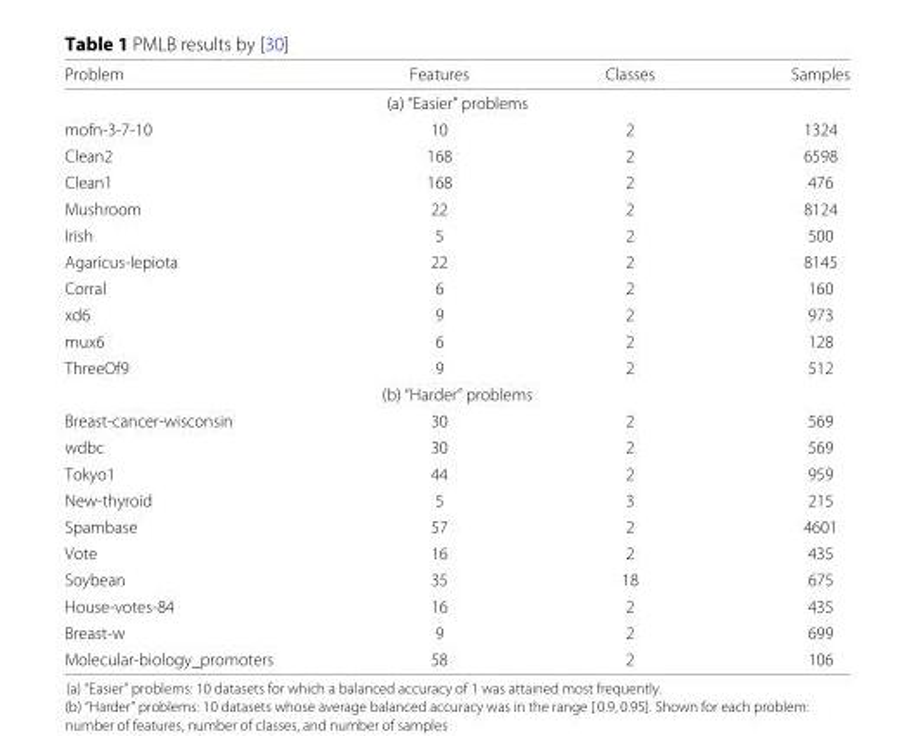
<table><thead><tr><td>Problem</td><td>Features</td><td>Classes</td><td>Samples</td></tr></thead><tbody><tr><td colspan="4">(a) “Easier” problems</td></tr><tr><td>mofn-3-7-10</td><td>10</td><td>2</td><td>1324</td></tr><tr><td>Clean2</td><td>168</td><td>2</td><td>6598</td></tr><tr><td>Clean1</td><td>168</td><td>2</td><td>476</td></tr><tr><td>Mushroom</td><td>22</td><td>2</td><td>8124</td></tr><tr><td>Irish</td><td>5</td><td>2</td><td>500</td></tr><tr><td>Agaricus-lepiota</td><td>22</td><td>2</td><td>8145</td></tr><tr><td>Corral</td><td>6</td><td>2</td><td>160</td></tr><tr><td>xd6</td><td>9</td><td>2</td><td>973</td></tr><tr><td>mux6</td><td>6</td><td>2</td><td>128</td></tr><tr><td>ThreeOf9</td><td>9</td><td>2</td><td>512</td></tr><tr><td colspan="4">(b) “Harder” problems</td></tr><tr><td>Breast-cancer-wisconsin</td><td>30</td><td>2</td><td>569</td></tr><tr><td>wdbc</td><td>30</td><td>2</td><td>569</td></tr><tr><td>Tokyo1</td><td>44</td><td>2</td><td>959</td></tr><tr><td>New-thyroid</td><td>5</td><td>3</td><td>215</td></tr><tr><td>Spambase</td><td>57</td><td>2</td><td>4601</td></tr><tr><td>Vote</td><td>16</td><td>2</td><td>435</td></tr><tr><td>Soybean</td><td>35</td><td>18</td><td>675</td></tr><tr><td>House-votes-84</td><td>16</td><td>2</td><td>435</td></tr><tr><td>Breast-w</td><td>9</td><td>2</td><td>699</td></tr><tr><td>Molecular-biology_promoters</td><td>58</td><td>2</td><td>106</td></tr></tbody></table>